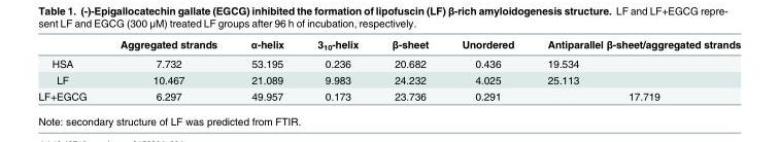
<table><thead><tr><td></td><td>Aggregated strands</td><td>α-helix</td><td>3<sub>10</sub>-helix</td><td>β-sheet</td><td>Unordered</td><td>Antiparallel β-sheet/aggregated strands</td></tr></thead><tbody><tr><td>HSA</td><td>7.732</td><td>53.195</td><td>0.236</td><td>20.682</td><td>0.436</td><td>19.534</td></tr><tr><td>LF</td><td>10.467</td><td>21.089</td><td>9.983</td><td>24.232</td><td>4.025</td><td>25.113</td></tr><tr><td>LF+EGCG</td><td>6.297</td><td>49.957</td><td>0.173</td><td>23.736</td><td>0.291</td><td>17.719</td></tr></tbody></table>